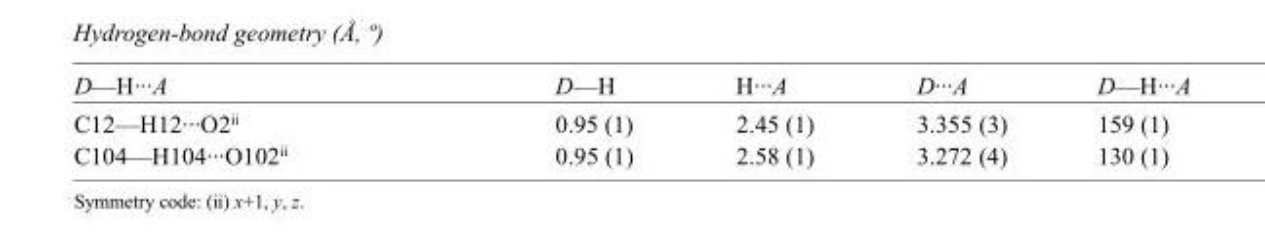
<table><tbody><tr><td>D—H···A</td><td>D—H</td><td>H···A</td><td>D···A</td><td>D—H···A</td></tr><tr><td>C12—H12···O2<sup>ii</sup></td><td>0.95 (1)</td><td>2.45 (1)</td><td>3.355 (3)</td><td>159 (1)</td></tr><tr><td>C104—H104···O102<sup>ii</sup></td><td>0.95 (1)</td><td>2.58 (1)</td><td>3.272 (4)</td><td>130 (1)</td></tr></tbody></table>